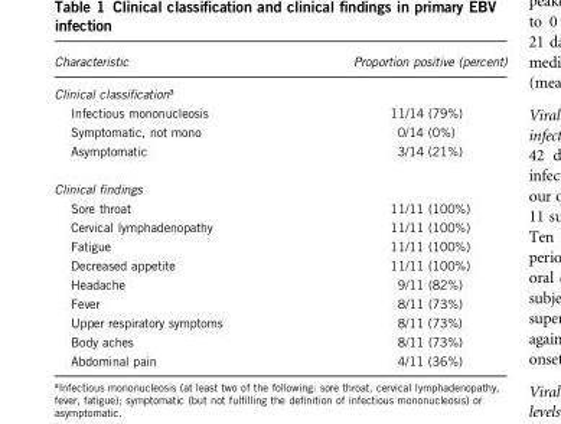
<table><thead><tr><td>Characteristic</td><td>Proportion positive (percent)</td></tr></thead><tbody><tr><td colspan="2">Clinical classification<sup>a</sup></td></tr><tr><td>Infectious mononucleosis</td><td>11/14 (79%)</td></tr><tr><td>Symptomatic, not mono</td><td>0/14 (0%)</td></tr><tr><td>Asymptomatic</td><td>3/14 (21%)</td></tr><tr><td colspan="2">Clinical findings</td></tr><tr><td>Sore throat</td><td>11/11 (100%)</td></tr><tr><td>Cervical lymphadenopathy</td><td>11/11 (100%)</td></tr><tr><td>Fatigue</td><td>11/11 (100%)</td></tr><tr><td>Decreased appetite</td><td>11/11 (100%)</td></tr><tr><td>Headache</td><td>9/11 (82%)</td></tr><tr><td>Fever</td><td>8/11 (73%)</td></tr><tr><td>Upper respiratory symptoms</td><td>8/11 (73%)</td></tr><tr><td>Body aches</td><td>8/11 (73%)</td></tr><tr><td>Abdominal pain</td><td>4/11 (36%)</td></tr></tbody></table>